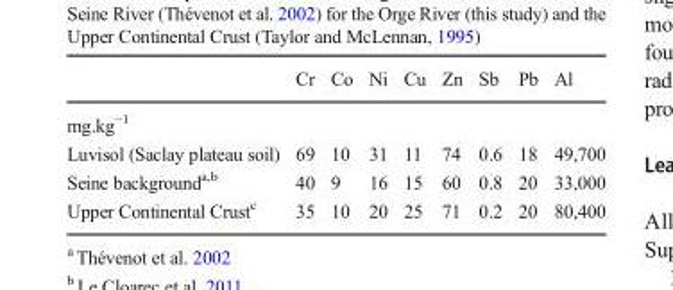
<table><thead><tr><td></td><td>Cr</td><td>Co</td><td>Ni</td><td>Cu</td><td>Zn</td><td>Sb</td><td>Pb</td><td>Al</td></tr></thead><tbody><tr><td colspan="9">mg.kg<sup>−1</sup></td></tr><tr><td>Luvisol (Saclay plateau soil)</td><td>69</td><td>10</td><td>31</td><td>11</td><td>74</td><td>0.6</td><td>18</td><td>49,700</td></tr><tr><td>Seine background<sup>a,b</sup></td><td>40</td><td>9</td><td>16</td><td>15</td><td>60</td><td>0.8</td><td>20</td><td>33,000</td></tr><tr><td>Upper Continental Crust<sup>c</sup></td><td>35</td><td>10</td><td>20</td><td>25</td><td>71</td><td>0.2</td><td>20</td><td>80,400</td></tr></tbody></table>